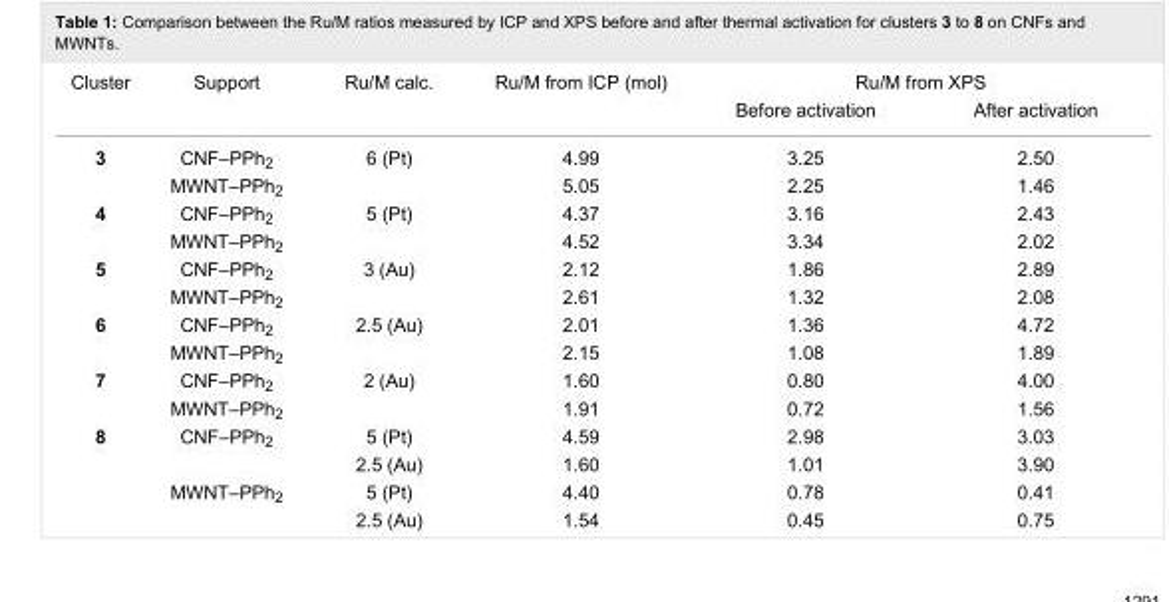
<table><tbody><tr><td rowspan="2">Cluster</td><td rowspan="2">Support</td><td rowspan="2">Ru/M calc.</td><td rowspan="2">Ru/M from ICP (mol)</td><td colspan="2">Ru/M from XPS</td></tr><tr><td>Before activation</td><td>After activation</td></tr><tr><td rowspan="2">3</td><td>CNF–PPh<sub>2</sub></td><td rowspan="2">6 (Pt)</td><td>4.99</td><td>3.25</td><td>2.50</td></tr><tr><td>MWNT–PPh<sub>2</sub></td><td>5.05</td><td>2.25</td><td>1.46</td></tr><tr><td rowspan="2">4</td><td>CNF–PPh<sub>2</sub></td><td rowspan="2">5 (Pt)</td><td>4.37</td><td>3.16</td><td>2.43</td></tr><tr><td>MWNT–PPh<sub>2</sub></td><td>4.52</td><td>3.34</td><td>2.02</td></tr><tr><td rowspan="2">5</td><td>CNF–PPh<sub>2</sub></td><td rowspan="2">3 (Au)</td><td>2.12</td><td>1.86</td><td>2.89</td></tr><tr><td>MWNT–PPh<sub>2</sub></td><td>2.61</td><td>1.32</td><td>2.08</td></tr><tr><td rowspan="2">6</td><td>CNF–PPh<sub>2</sub></td><td rowspan="2">2.5 (Au)</td><td>2.01</td><td>1.36</td><td>4.72</td></tr><tr><td>MWNT–PPh<sub>2</sub></td><td>2.15</td><td>1.08</td><td>1.89</td></tr><tr><td rowspan="2">7</td><td>CNF–PPh<sub>2</sub></td><td rowspan="2">2 (Au)</td><td>1.60</td><td>0.80</td><td>4.00</td></tr><tr><td>MWNT–PPh<sub>2</sub></td><td>1.91</td><td>0.72</td><td>1.56</td></tr><tr><td rowspan="4">8</td><td rowspan="2">CNF–PPh<sub>2</sub></td><td>5 (Pt)</td><td>4.59</td><td>2.98</td><td>3.03</td></tr><tr><td>2.5 (Au)</td><td>1.60</td><td>1.01</td><td>3.90</td></tr><tr><td rowspan="2">MWNT–PPh<sub>2</sub></td><td>5 (Pt)</td><td>4.40</td><td>0.78</td><td>0.41</td></tr><tr><td>2.5 (Au)</td><td>1.54</td><td>0.45</td><td>0.75</td></tr></tbody></table>